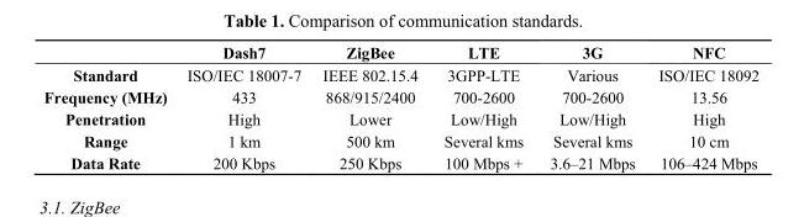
<table><thead><tr><td></td><td>Dash7</td><td>ZigBee</td><td>LTE</td><td>3G</td><td>NFC</td></tr></thead><tbody><tr><td>Standard</td><td>ISO/IEC 18007-7</td><td>IEEE 802.15.4</td><td>3GPP-LTE</td><td>Various</td><td>ISO/IEC 18092</td></tr><tr><td>Frequency (MHz)</td><td>433</td><td>868/915/2400</td><td>700-2600</td><td>700-2600</td><td>13.56</td></tr><tr><td>Penetration</td><td>High</td><td>Lower</td><td>Low/High</td><td>Low/High</td><td>High</td></tr><tr><td>Range</td><td>1 km</td><td>500 km</td><td>Several kms</td><td>Several kms</td><td>10 cm</td></tr><tr><td>Data Rate</td><td>200 Kbps</td><td>250 Kbps</td><td>100 Mbps +</td><td>3.6–21 Mbps</td><td>106–424 Mbps</td></tr></tbody></table>